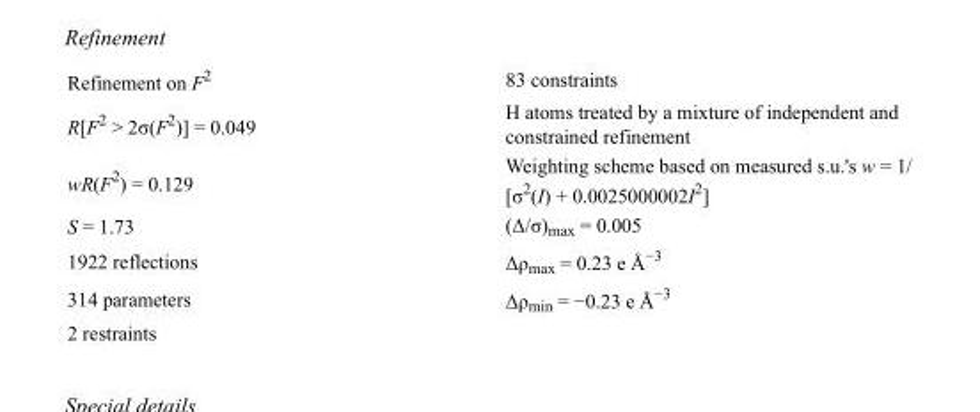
<table><tbody><tr><td>Refinement on F<sup>2</sup></td><td>83 constraints</td></tr><tr><td>R[F<sup>2</sup> &gt; 2σ(F<sup>2</sup>)] = 0.049</td><td>H atoms treated by a mixture of independent and constrained refinement</td></tr><tr><td>wR(F<sup>2</sup>) = 0.129</td><td>Weighting scheme based on measured s.u.&#x27;s w = 1/ [σ<sup>2</sup>(I) + 0.0025000002I<sup>2</sup>]</td></tr><tr><td>S = 1.73</td><td>(Δ/σ)<sub>max</sub> = 0.005</td></tr><tr><td>1922 reflections</td><td>Δρ<sub>max</sub> = 0.23 e Å<sup>−3</sup></td></tr><tr><td>314 parameters</td><td>Δρ<sub>min</sub> = −0.23 e Å<sup>−3</sup></td></tr><tr><td>2 restraints</td><td></td></tr></tbody></table>